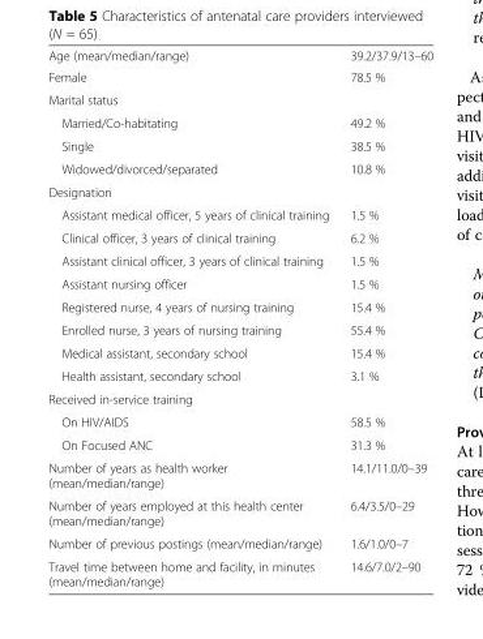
<table><thead><tr><td>Age (mean/median/range)</td><td>39.2/37.9/13–60</td></tr></thead><tbody><tr><td>Female</td><td>78.5 %</td></tr><tr><td colspan="2">Marital status</td></tr><tr><td>Married/Co-habitating</td><td>49.2 %</td></tr><tr><td>Single</td><td>38.5 %</td></tr><tr><td>Widowed/divorced/separated</td><td>10.8 %</td></tr><tr><td colspan="2">Designation</td></tr><tr><td>Assistant medical officer, 5 years of clinical training</td><td>1.5 %</td></tr><tr><td>Clinical officer, 3 years of clinical training</td><td>6.2 %</td></tr><tr><td>Assistant clinical officer, 3 years of clinical training</td><td>1.5 %</td></tr><tr><td>Assistant nursing officer</td><td>1.5 %</td></tr><tr><td>Registered nurse, 4 years of nursing training</td><td>15.4 %</td></tr><tr><td>Enrolled nurse, 3 years of nursing training</td><td>55.4 %</td></tr><tr><td>Medical assistant, secondary school</td><td>15.4 %</td></tr><tr><td>Health assistant, secondary school</td><td>3.1 %</td></tr><tr><td colspan="2">Received in-service training</td></tr><tr><td>On HIV/AIDS</td><td>58.5 %</td></tr><tr><td>On Focused ANC</td><td>31.3 %</td></tr><tr><td>Number of years as health worker (mean/median/range)</td><td>14.1/11.0/0–39</td></tr><tr><td>Number of years employed at this health center (mean/median/range)</td><td>6.4/3.5/0–29</td></tr><tr><td>Number of previous postings (mean/median/range)</td><td>1.6/1.0/0–7</td></tr><tr><td>Travel time between home and facility, in minutes (mean/median/range)</td><td>14.6/7.0/2–90</td></tr></tbody></table>